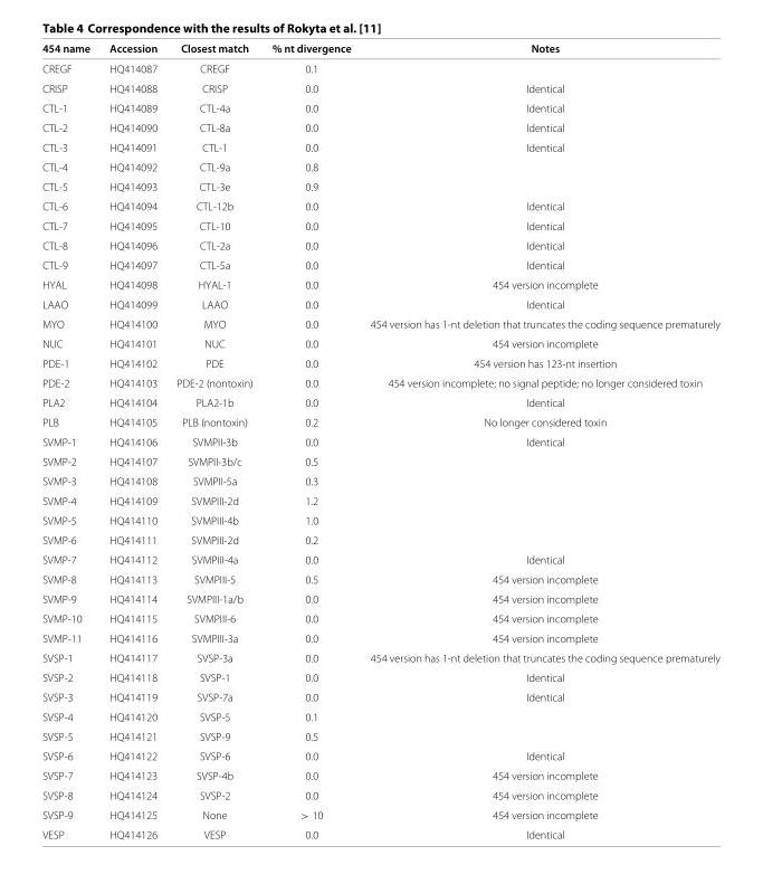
<table><thead><tr><td>454 name</td><td>Accession</td><td>Closest match</td><td>% nt divergence</td><td>Notes</td></tr></thead><tbody><tr><td>CREGF</td><td>HQ414087</td><td>CREGF</td><td>0.1</td><td></td></tr><tr><td>CRISP</td><td>HQ414088</td><td>CRISP</td><td>0.0</td><td>Identical</td></tr><tr><td>CTL-1</td><td>HQ414089</td><td>CTL-4a</td><td>0.0</td><td>Identical</td></tr><tr><td>CTL-2</td><td>HQ414090</td><td>CTL-8a</td><td>0.0</td><td>Identical</td></tr><tr><td>CTL-3</td><td>HQ414091</td><td>CTL-1</td><td>0.0</td><td>Identical</td></tr><tr><td>CTL-4</td><td>HQ414092</td><td>CTL-9a</td><td>0.8</td><td></td></tr><tr><td>CTL-5</td><td>HQ414093</td><td>CTL-3e</td><td>0.9</td><td></td></tr><tr><td>CTL-6</td><td>HQ414094</td><td>CTL-12b</td><td>0.0</td><td>Identical</td></tr><tr><td>CTL-7</td><td>HQ414095</td><td>CTL-10</td><td>0.0</td><td>Identical</td></tr><tr><td>CTL-8</td><td>HQ414096</td><td>CTL-2a</td><td>0.0</td><td>Identical</td></tr><tr><td>CTL-9</td><td>HQ414097</td><td>CTL-5a</td><td>0.0</td><td>Identical</td></tr><tr><td>HYAL</td><td>HQ414098</td><td>HYAL-1</td><td>0.0</td><td>454 version incomplete</td></tr><tr><td>LAAO</td><td>HQ414099</td><td>LAAO</td><td>0.0</td><td>Identical</td></tr><tr><td>MYO</td><td>HQ414100</td><td>MYO</td><td>0.0</td><td>454 version has 1-nt deletion that truncates the coding sequence prematurely</td></tr><tr><td>NUC</td><td>HQ414101</td><td>NUC</td><td>0.0</td><td>454 version incomplete</td></tr><tr><td>PDE-1</td><td>HQ414102</td><td>PDE</td><td>0.0</td><td>454 version has 123-nt insertion</td></tr><tr><td>PDE-2</td><td>HQ414103</td><td>PDE-2 (nontoxin)</td><td>0.0</td><td>454 version incomplete; no signal peptide; no longer considered toxin</td></tr><tr><td>PLA2</td><td>HQ414104</td><td>PLA2-1b</td><td>0.0</td><td>Identical</td></tr><tr><td>PLB</td><td>HQ414105</td><td>PLB (nontoxin)</td><td>0.2</td><td>No longer considered toxin</td></tr><tr><td>SVMP-1</td><td>HQ414106</td><td>SVMPII-3b</td><td>0.0</td><td>Identical</td></tr><tr><td>SVMP-2</td><td>HQ414107</td><td>SVMPII-3b/c</td><td>0.5</td><td></td></tr><tr><td>SVMP-3</td><td>HQ414108</td><td>SVMPII-5a</td><td>0.3</td><td></td></tr><tr><td>SVMP-4</td><td>HQ414109</td><td>SVMPIII-2d</td><td>1.2</td><td></td></tr><tr><td>SVMP-5</td><td>HQ414110</td><td>SVMPIII-4b</td><td>1.0</td><td></td></tr><tr><td>SVMP-6</td><td>HQ414111</td><td>SVMPIII-2d</td><td>0.2</td><td></td></tr><tr><td>SVMP-7</td><td>HQ414112</td><td>SVMPIII-4a</td><td>0.0</td><td>Identical</td></tr><tr><td>SVMP-8</td><td>HQ414113</td><td>SVMPIII-5</td><td>0.5</td><td>454 version incomplete</td></tr><tr><td>SVMP-9</td><td>HQ414114</td><td>SVMPIII-1a/b</td><td>0.0</td><td>454 version incomplete</td></tr><tr><td>SVMP-10</td><td>HQ414115</td><td>SVMPIII-6</td><td>0.0</td><td>454 version incomplete</td></tr><tr><td>SVMP-11</td><td>HQ414116</td><td>SVMPIII-3a</td><td>0.0</td><td>454 version incomplete</td></tr><tr><td>SVSP-1</td><td>HQ414117</td><td>SVSP-3a</td><td>0.0</td><td>454 version has 1-nt deletion that truncates the coding sequence prematurely</td></tr><tr><td>SVSP-2</td><td>HQ414118</td><td>SVSP-1</td><td>0.0</td><td>Identical</td></tr><tr><td>SVSP-3</td><td>HQ414119</td><td>SVSP-7a</td><td>0.0</td><td>Identical</td></tr><tr><td>SVSP-4</td><td>HQ414120</td><td>SVSP-5</td><td>0.1</td><td></td></tr><tr><td>SVSP-5</td><td>HQ414121</td><td>SVSP-9</td><td>0.5</td><td></td></tr><tr><td>SVSP-6</td><td>HQ414122</td><td>SVSP-6</td><td>0.0</td><td>Identical</td></tr><tr><td>SVSP-7</td><td>HQ414123</td><td>SVSP-4b</td><td>0.0</td><td>454 version incomplete</td></tr><tr><td>SVSP-8</td><td>HQ414124</td><td>SVSP-2</td><td>0.0</td><td>454 version incomplete</td></tr><tr><td>SVSP-9</td><td>HQ414125</td><td>None</td><td>&gt; 10</td><td>454 version incomplete</td></tr><tr><td>VESP</td><td>HQ414126</td><td>VESP</td><td>0.0</td><td>Identical</td></tr></tbody></table>